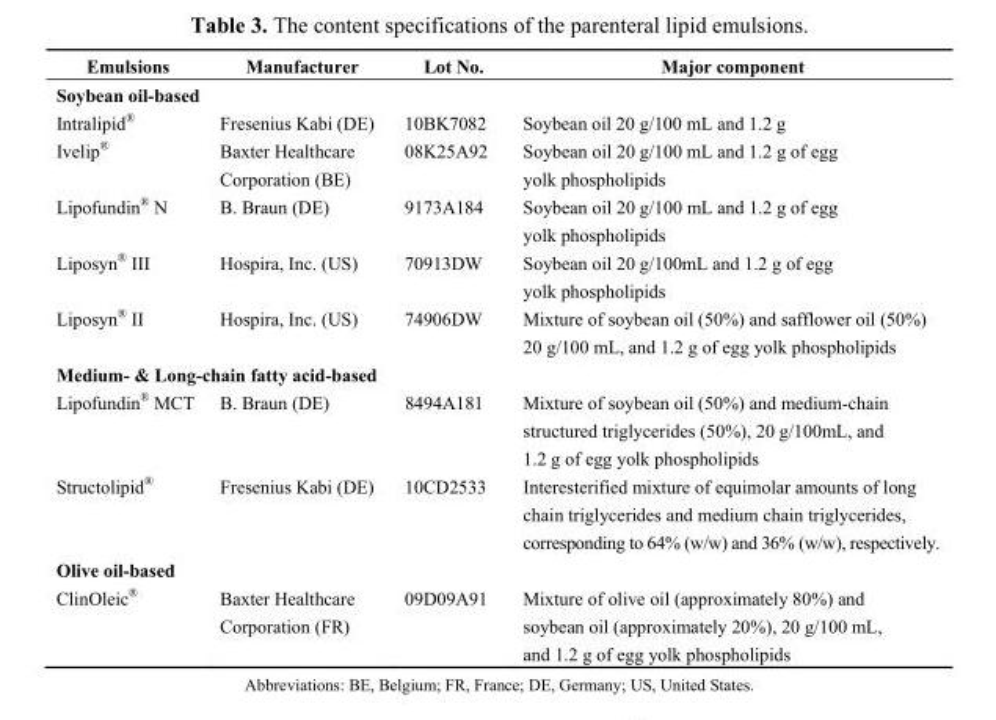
<table><thead><tr><td>Emulsions</td><td>Manufacturer</td><td>Lot No.</td><td>Major component</td></tr></thead><tbody><tr><td colspan="4">Soybean oil-based</td></tr><tr><td>Intralipid<sup>®</sup></td><td>Fresenius Kabi (DE)</td><td>10BK7082</td><td>Soybean oil 20 g/100 mL and 1.2 g</td></tr><tr><td>Ivelip<sup>®</sup></td><td>Baxter Healthcare Corporation (BE)</td><td>08K25A92</td><td>Soybean oil 20 g/100 mL and 1.2 g of egg yolk phospholipids</td></tr><tr><td>Lipofundin<sup>®</sup> N</td><td>B. Braun (DE)</td><td>9173A184</td><td>Soybean oil 20 g/100 mL and 1.2 g of egg yolk phospholipids</td></tr><tr><td>Liposyn<sup>®</sup> III</td><td>Hospira, Inc. (US)</td><td>70913DW</td><td>Soybean oil 20 g/100mL and 1.2 g of egg yolk phospholipids</td></tr><tr><td>Liposyn<sup>®</sup> II</td><td>Hospira, Inc. (US)</td><td>74906DW</td><td>Mixture of soybean oil (50%) and safflower oil (50%) 20 g/100 mL, and 1.2 g of egg yolk phospholipids</td></tr><tr><td colspan="4">Medium- &amp; Long-chain fatty acid-based</td></tr><tr><td>Lipofundin<sup>®</sup> MCT</td><td>B. Braun (DE)</td><td>8494A181</td><td>Mixture of soybean oil (50%) and medium-chain structured triglycerides (50%), 20 g/100mL, and 1.2 g of egg yolk phospholipids</td></tr><tr><td>Structolipid<sup>®</sup></td><td>Fresenius Kabi (DE)</td><td>10CD2533</td><td>Interesterified mixture of equimolar amounts of long chain triglycerides and medium chain triglycerides, corresponding to 64% (w/w) and 36% (w/w), respectively.</td></tr><tr><td colspan="4">Olive oil-based</td></tr><tr><td>ClinOleic<sup>®</sup></td><td>Baxter Healthcare Corporation (FR)</td><td>09D09A91</td><td>Mixture of olive oil (approximately 80%) and soybean oil (approximately 20%), 20 g/100 mL, and 1.2 g of egg yolk phospholipids</td></tr></tbody></table>